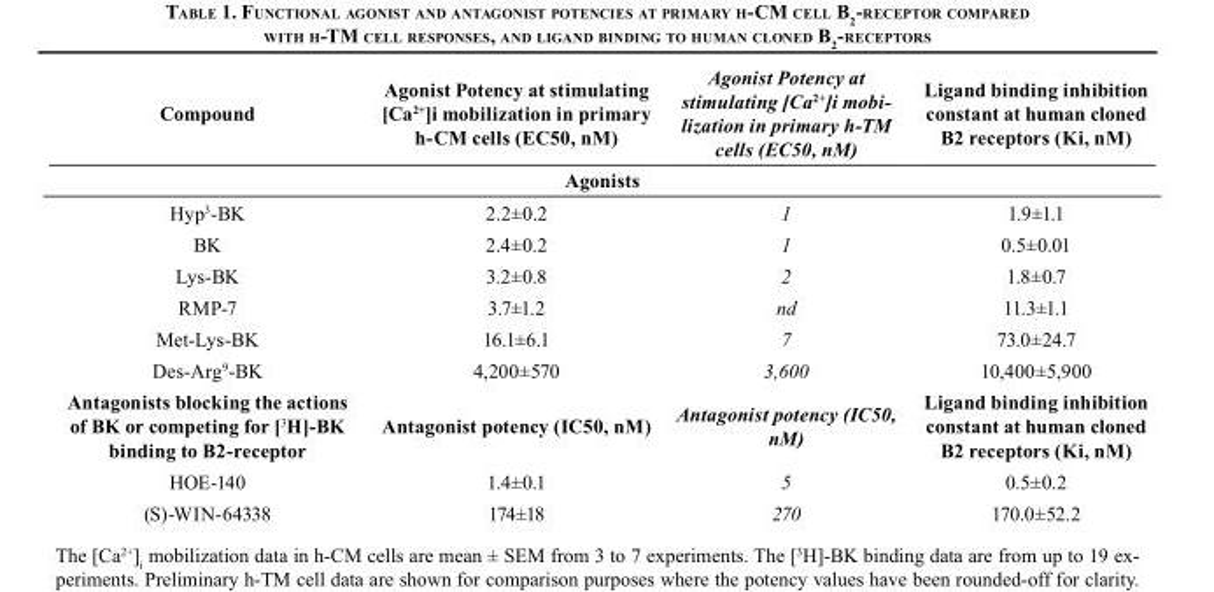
<table><thead><tr><td>Compound</td><td>Agonist Potency at stimulating [Ca<sup>2+</sup>]<sub>i</sub> mobilization in primary h-CM cells (EC<sub>50</sub>, nM)</td><td>Agonist Potency at stimulating [Ca2+]i mobi- lization in primary h-TM cells (EC50, nM)</td><td>Ligand binding inhibition constant at human cloned B<sub>2</sub> receptors (K<sub>i</sub>, nM)</td></tr><tr><td colspan="4">Agonists</td></tr></thead><tbody><tr><td>Hyp<sup>3</sup>-BK</td><td>2.2±0.2</td><td>1</td><td>1.9±1.1</td></tr><tr><td>BK</td><td>2.4±0.2</td><td>1</td><td>0.5±0.01</td></tr><tr><td>Lys-BK</td><td>3.2±0.8</td><td>2</td><td>1.8±0.7</td></tr><tr><td>RMP-7</td><td>3.7±1.2</td><td>nd</td><td>11.3±1.1</td></tr><tr><td>Met-Lys-BK</td><td>16.1±6.1</td><td>7</td><td>73.0±24.7</td></tr><tr><td>Des-Arg<sup>9</sup>-BK</td><td>4,200±570</td><td>3,600</td><td>10,400±5,900</td></tr><tr><td>Antagonists blocking the actions of BK or competing for [<sup>3</sup>H]-BK binding to B<sub>2</sub>-receptor</td><td>Antagonist potency (IC<sub>50</sub>, nM)</td><td>Antagonist potency (IC<sub>50</sub>, nM)</td><td>Ligand binding inhibition constant at human cloned B<sub>2</sub> receptors (K<sub>i</sub>, nM)</td></tr><tr><td>HOE-140</td><td>1.4±0.1</td><td>5</td><td>0.5±0.2</td></tr><tr><td>(S)-WIN-64338</td><td>174±18</td><td>270</td><td>170.0±52.2</td></tr></tbody></table>